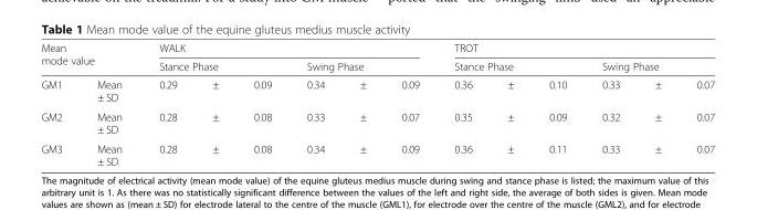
<table><thead><tr><td rowspan="2" colspan="2">Mean mode value</td><td colspan="6">WALK</td><td colspan="6">TROT</td></tr><tr><td colspan="3">Stance Phase</td><td colspan="3">Swing Phase</td><td colspan="3">Stance Phase</td><td colspan="3">Swing Phase</td></tr><tr><td>GM1</td><td>Mean ± SD</td><td>0.29</td><td>±</td><td>0.09</td><td>0.34</td><td>±</td><td>0.09</td><td>0.36</td><td>±</td><td>0.10</td><td>0.33</td><td>±</td><td>0.07</td></tr></thead><tbody><tr><td>GM2</td><td>Mean ± SD</td><td>0.28</td><td>±</td><td>0.08</td><td>0.33</td><td>±</td><td>0.07</td><td>0.35</td><td>±</td><td>0.09</td><td>0.32</td><td>±</td><td>0.07</td></tr><tr><td>GM3</td><td>Mean ± SD</td><td>0.28</td><td>±</td><td>0.08</td><td>0.34</td><td>±</td><td>0.09</td><td>0.36</td><td>±</td><td>0.11</td><td>0.33</td><td>±</td><td>0.07</td></tr></tbody></table>